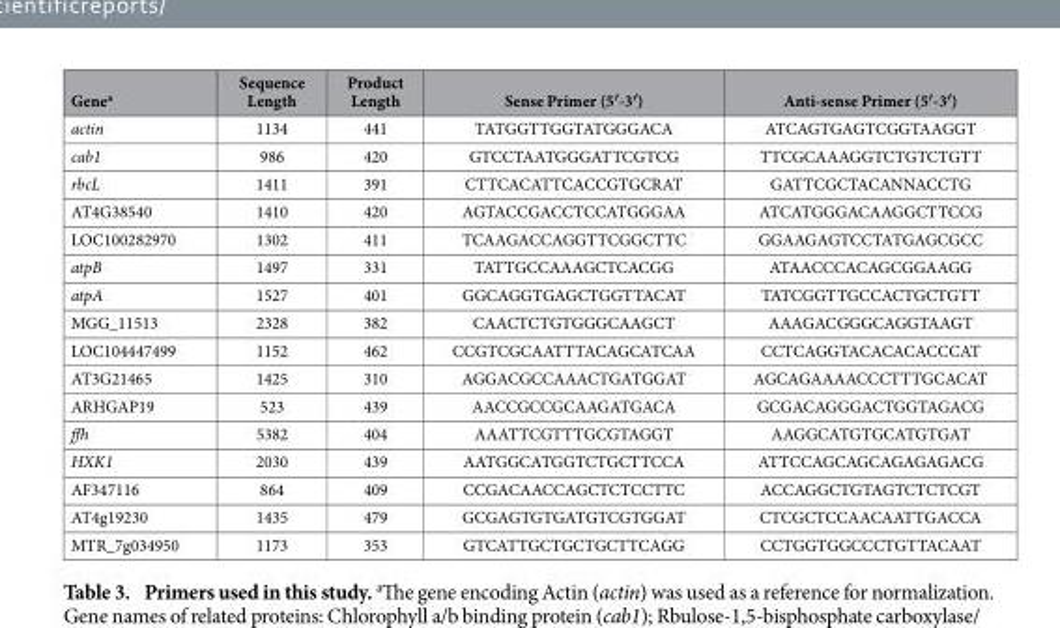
<table><thead><tr><td>Gene<sup>a</sup></td><td>Sequence Length</td><td>Product Length</td><td>Sense Primer (5′-3′)</td><td>Anti-sense Primer (5′-3′)</td></tr></thead><tbody><tr><td>actin</td><td>1134</td><td>441</td><td>TATGGTTGGTATGGGACA</td><td>ATCAGTGAGTCGGTAAGGT</td></tr><tr><td>cab1</td><td>986</td><td>420</td><td>GTCCTAATGGGATTCGTCG</td><td>TTCGCAAAGGTCTGTCTGTT</td></tr><tr><td>rbcL</td><td>1411</td><td>391</td><td>CTTCACATTCACCGTGCRAT</td><td>GATTCGCTACANNACCTG</td></tr><tr><td>AT4G38540</td><td>1410</td><td>420</td><td>AGTACCGACCTCCATGGGAA</td><td>ATCATGGGACAAGGCTTCCG</td></tr><tr><td>LOC100282970</td><td>1302</td><td>411</td><td>TCAAGACCAGGTTCGGCTTC</td><td>GGAAGAGTCCTATGAGCGCC</td></tr><tr><td>atpB</td><td>1497</td><td>331</td><td>TATTGCCAAAGCTCACGG</td><td>ATAACCCACAGCGGAAGG</td></tr><tr><td>atpA</td><td>1527</td><td>401</td><td>GGCAGGTGAGCTGGTTACAT</td><td>TATCGGTTGCCACTGCTGTT</td></tr><tr><td>MGG_11513</td><td>2328</td><td>382</td><td>CAACTCTGTGGGCAAGCT</td><td>AAAGACGGGCAGGTAAGT</td></tr><tr><td>LOC104447499</td><td>1152</td><td>462</td><td>CCGTCGCAATTTACAGCATCAA</td><td>CCTCAGGTACACACACCCAT</td></tr><tr><td>AT3G21465</td><td>1425</td><td>310</td><td>AGGACGCCAAACTGATGGAT</td><td>AGCAGAAAACCCTTTGCACAT</td></tr><tr><td>ARHGAP19</td><td>523</td><td>439</td><td>AACCGCCGCAAGATGACA</td><td>GCGACAGGGACTGGTAGACG</td></tr><tr><td>ffh</td><td>5382</td><td>404</td><td>AAATTCGTTTGCGTAGGT</td><td>AAGGCATGTGCATGTGAT</td></tr><tr><td>HXK1</td><td>2030</td><td>439</td><td>AATGGCATGGTCTGCTTCCA</td><td>ATTCCAGCAGCAGAGAGACG</td></tr><tr><td>AF347116</td><td>864</td><td>409</td><td>CCGACAACCAGCTCTCCTTC</td><td>ACCAGGCTGTAGTCTCTCGT</td></tr><tr><td>AT4g19230</td><td>1435</td><td>479</td><td>GCGAGTGTGATGTCGTGGAT</td><td>CTCGCTCCAACAATTGACCA</td></tr><tr><td>MTR_7g034950</td><td>1173</td><td>353</td><td>GTCATTGCTGCTGCTTCAGG</td><td>CCTGGTGGCCCTGTTACAAT</td></tr></tbody></table>